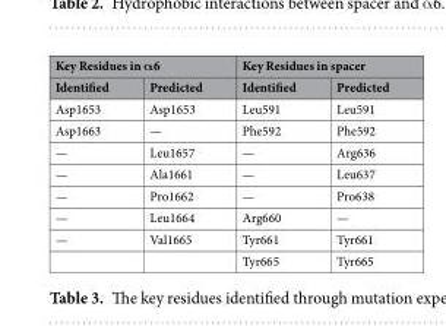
<table><thead><tr><td colspan="2">Key Residues in α6</td><td colspan="2">Key Residues in spacer</td></tr><tr><td>Identified</td><td>Predicted</td><td>Identified</td><td>Predicted</td></tr></thead><tbody><tr><td>Asp1653</td><td>Asp1653</td><td>Leu591</td><td>Leu591</td></tr><tr><td>Asp1663</td><td>—</td><td>Phe592</td><td>Phe592</td></tr><tr><td>—</td><td>Leu1657</td><td>—</td><td>Arg636</td></tr><tr><td>—</td><td>Ala1661</td><td>—</td><td>Leu637</td></tr><tr><td>—</td><td>Pro1662</td><td>—</td><td>Pro638</td></tr><tr><td>—</td><td>Leu1664</td><td>Arg660</td><td>—</td></tr><tr><td rowspan="2">—</td><td>Val1665</td><td>Tyr661</td><td>Tyr661</td></tr><tr><td></td><td>Tyr665</td><td>Tyr665</td></tr></tbody></table>